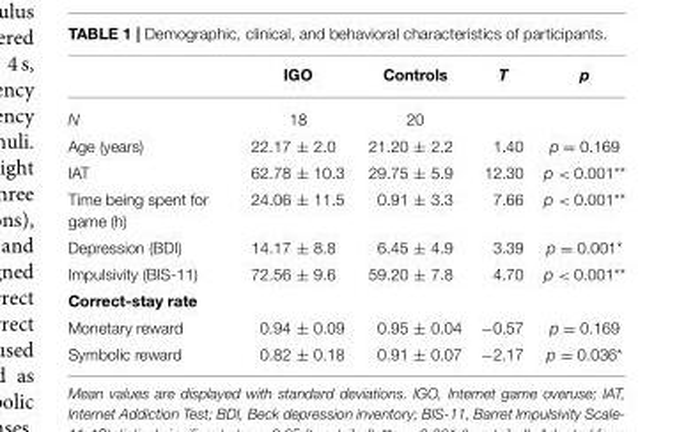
<table><thead><tr><td></td><td>IGO</td><td>Controls</td><td>T</td><td>p</td></tr></thead><tbody><tr><td>N</td><td>18</td><td>20</td><td></td><td></td></tr><tr><td>Age (years)</td><td>22.17 ± 2.0</td><td>21.20 ± 2.2</td><td>1.40</td><td>p = 0.169</td></tr><tr><td>IAT</td><td>62.78 ± 10.3</td><td>29.75 ± 5.9</td><td>12.30</td><td>p &lt; 0.001**</td></tr><tr><td>Time being spent for game (h)</td><td>24.06 ± 11.5</td><td>0.91 ± 3.3</td><td>7.66</td><td>p &lt; 0.001**</td></tr><tr><td>Depression (BDI)</td><td>14.17 ± 8.8</td><td>6.45 ± 4.9</td><td>3.39</td><td>p = 0.001*</td></tr><tr><td>Impulsivity (BIS-11)</td><td>72.56 ± 9.6</td><td>59.20 ± 7.8</td><td>4.70</td><td>p &lt; 0.001**</td></tr><tr><td colspan="5">Correct-stay rate</td></tr><tr><td>Monetary reward</td><td>0.94 ± 0.09</td><td>0.95 ± 0.04</td><td>−0.57</td><td>p = 0.169</td></tr><tr><td>Symbolic reward</td><td>0.82 ± 0.18</td><td>0.91 ± 0.07</td><td>−2.17</td><td>p = 0.036*</td></tr></tbody></table>